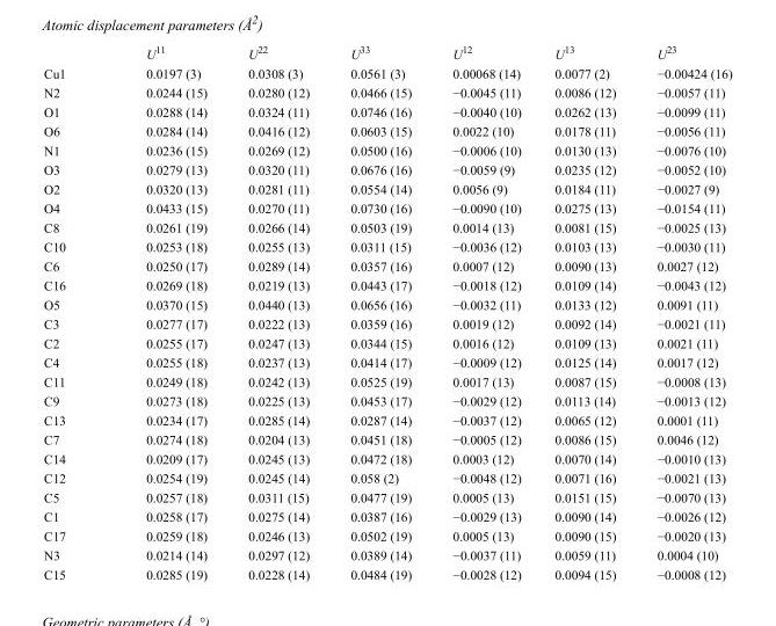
<table><thead><tr><td></td><td>U<sup>11</sup></td><td>U<sup>22</sup></td><td>U<sup>33</sup></td><td>U<sup>12</sup></td><td>U<sup>13</sup></td><td>U<sup>23</sup></td></tr></thead><tbody><tr><td>Cu1</td><td>0.0197 (3)</td><td>0.0308 (3)</td><td>0.0561 (3)</td><td>0.00068 (14)</td><td>0.0077 (2)</td><td>−0.00424 (16)</td></tr><tr><td>N2</td><td>0.0244 (15)</td><td>0.0280 (12)</td><td>0.0466 (15)</td><td>−0.0045 (11)</td><td>0.0086 (12)</td><td>−0.0057 (11)</td></tr><tr><td>O1</td><td>0.0288 (14)</td><td>0.0324 (11)</td><td>0.0746 (16)</td><td>−0.0040 (10)</td><td>0.0262 (13)</td><td>−0.0099 (11)</td></tr><tr><td>O6</td><td>0.0284 (14)</td><td>0.0416 (12)</td><td>0.0603 (15)</td><td>0.0022 (10)</td><td>0.0178 (11)</td><td>−0.0056 (11)</td></tr><tr><td>N1</td><td>0.0236 (15)</td><td>0.0269 (12)</td><td>0.0500 (16)</td><td>−0.0006 (10)</td><td>0.0130 (13)</td><td>−0.0076 (10)</td></tr><tr><td>O3</td><td>0.0279 (13)</td><td>0.0320 (11)</td><td>0.0676 (16)</td><td>−0.0059 (9)</td><td>0.0235 (12)</td><td>−0.0052 (10)</td></tr><tr><td>O2</td><td>0.0320 (13)</td><td>0.0281 (11)</td><td>0.0554 (14)</td><td>0.0056 (9)</td><td>0.0184 (11)</td><td>−0.0027 (9)</td></tr><tr><td>O4</td><td>0.0433 (15)</td><td>0.0270 (11)</td><td>0.0730 (16)</td><td>−0.0090 (10)</td><td>0.0275 (13)</td><td>−0.0154 (11)</td></tr><tr><td>C8</td><td>0.0261 (19)</td><td>0.0266 (14)</td><td>0.0503 (19)</td><td>0.0014 (13)</td><td>0.0081 (15)</td><td>−0.0025 (13)</td></tr><tr><td>C10</td><td>0.0253 (18)</td><td>0.0255 (13)</td><td>0.0311 (15)</td><td>−0.0036 (12)</td><td>0.0103 (13)</td><td>−0.0030 (11)</td></tr><tr><td>C6</td><td>0.0250 (17)</td><td>0.0289 (14)</td><td>0.0357 (16)</td><td>0.0007 (12)</td><td>0.0090 (13)</td><td>0.0027 (12)</td></tr><tr><td>C16</td><td>0.0269 (18)</td><td>0.0219 (13)</td><td>0.0443 (17)</td><td>−0.0018 (12)</td><td>0.0109 (14)</td><td>−0.0043 (12)</td></tr><tr><td>O5</td><td>0.0370 (15)</td><td>0.0440 (13)</td><td>0.0656 (16)</td><td>−0.0032 (11)</td><td>0.0133 (12)</td><td>0.0091 (11)</td></tr><tr><td>C3</td><td>0.0277 (17)</td><td>0.0222 (13)</td><td>0.0359 (16)</td><td>0.0019 (12)</td><td>0.0092 (14)</td><td>−0.0021 (11)</td></tr><tr><td>C2</td><td>0.0255 (17)</td><td>0.0247 (13)</td><td>0.0344 (15)</td><td>0.0016 (12)</td><td>0.0109 (13)</td><td>0.0021 (11)</td></tr><tr><td>C4</td><td>0.0255 (18)</td><td>0.0237 (13)</td><td>0.0414 (17)</td><td>−0.0009 (12)</td><td>0.0125 (14)</td><td>0.0017 (12)</td></tr><tr><td>C11</td><td>0.0249 (18)</td><td>0.0242 (13)</td><td>0.0525 (19)</td><td>0.0017 (13)</td><td>0.0087 (15)</td><td>−0.0008 (13)</td></tr><tr><td>C9</td><td>0.0273 (18)</td><td>0.0225 (13)</td><td>0.0453 (17)</td><td>−0.0029 (12)</td><td>0.0113 (14)</td><td>−0.0013 (12)</td></tr><tr><td>C13</td><td>0.0234 (17)</td><td>0.0285 (14)</td><td>0.0287 (14)</td><td>−0.0037 (12)</td><td>0.0065 (12)</td><td>0.0001 (11)</td></tr><tr><td>C7</td><td>0.0274 (18)</td><td>0.0204 (13)</td><td>0.0451 (18)</td><td>−0.0005 (12)</td><td>0.0086 (15)</td><td>0.0046 (12)</td></tr><tr><td>C14</td><td>0.0209 (17)</td><td>0.0245 (13)</td><td>0.0472 (18)</td><td>0.0003 (12)</td><td>0.0070 (14)</td><td>−0.0010 (13)</td></tr><tr><td>C12</td><td>0.0254 (19)</td><td>0.0245 (14)</td><td>0.058 (2)</td><td>−0.0048 (12)</td><td>0.0071 (16)</td><td>−0.0021 (13)</td></tr><tr><td>C5</td><td>0.0257 (18)</td><td>0.0311 (15)</td><td>0.0477 (19)</td><td>0.0005 (13)</td><td>0.0151 (15)</td><td>−0.0070 (13)</td></tr><tr><td>C1</td><td>0.0258 (17)</td><td>0.0275 (14)</td><td>0.0387 (16)</td><td>−0.0029 (13)</td><td>0.0090 (14)</td><td>−0.0026 (12)</td></tr><tr><td>C17</td><td>0.0259 (18)</td><td>0.0246 (13)</td><td>0.0502 (19)</td><td>0.0005 (13)</td><td>0.0090 (15)</td><td>−0.0020 (13)</td></tr><tr><td>N3</td><td>0.0214 (14)</td><td>0.0297 (12)</td><td>0.0389 (14)</td><td>−0.0037 (11)</td><td>0.0059 (11)</td><td>0.0004 (10)</td></tr><tr><td>C15</td><td>0.0285 (19)</td><td>0.0228 (14)</td><td>0.0484 (19)</td><td>−0.0028 (12)</td><td>0.0094 (15)</td><td>−0.0008 (12)</td></tr></tbody></table>